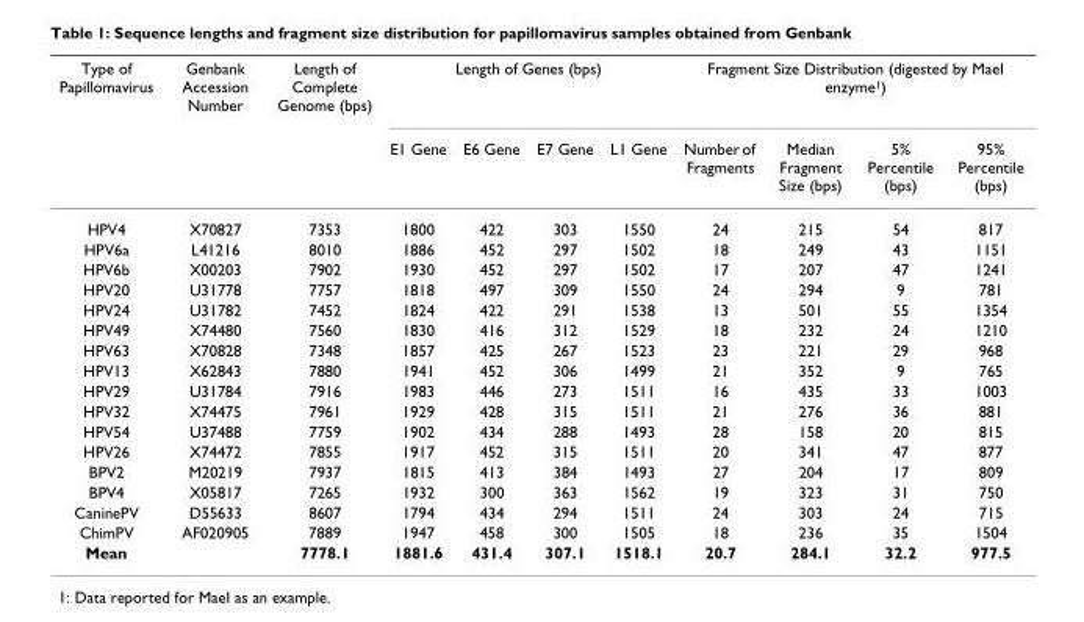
<table><thead><tr><td rowspan="2">Type of Papillomavirus</td><td rowspan="2">Genbank Accession Number</td><td rowspan="2">Length of Complete Genome (bps)</td><td colspan="4">Length of Genes (bps)</td><td colspan="4">Fragment Size Distribution (digested by MaeI enzyme1)</td></tr><tr><td>E1 Gene</td><td>E6 Gene</td><td>E7 Gene</td><td>L1 Gene</td><td>Number of Fragments</td><td>Median Fragment Size (bps)</td><td>5% Percentile (bps)</td><td>95% Percentile (bps)</td></tr></thead><tbody><tr><td>HPV4</td><td>X70827</td><td>7353</td><td>1800</td><td>422</td><td>303</td><td>1550</td><td>24</td><td>215</td><td>54</td><td>817</td></tr><tr><td>HPV6a</td><td>L41216</td><td>8010</td><td>1886</td><td>452</td><td>297</td><td>1502</td><td>18</td><td>249</td><td>43</td><td>1151</td></tr><tr><td>HPV6b</td><td>X00203</td><td>7902</td><td>1930</td><td>452</td><td>297</td><td>1502</td><td>17</td><td>207</td><td>47</td><td>1241</td></tr><tr><td>HPV20</td><td>U31778</td><td>7757</td><td>1818</td><td>497</td><td>309</td><td>1550</td><td>24</td><td>294</td><td>9</td><td>781</td></tr><tr><td>HPV24</td><td>U31782</td><td>7452</td><td>1824</td><td>422</td><td>291</td><td>1538</td><td>13</td><td>501</td><td>55</td><td>1354</td></tr><tr><td>HPV49</td><td>X74480</td><td>7560</td><td>1830</td><td>416</td><td>312</td><td>1529</td><td>18</td><td>232</td><td>24</td><td>1210</td></tr><tr><td>HPV63</td><td>X70828</td><td>7348</td><td>1857</td><td>425</td><td>267</td><td>1523</td><td>23</td><td>221</td><td>29</td><td>968</td></tr><tr><td>HPV13</td><td>X62843</td><td>7880</td><td>1941</td><td>452</td><td>306</td><td>1499</td><td>21</td><td>352</td><td>9</td><td>765</td></tr><tr><td>HPV29</td><td>U31784</td><td>7916</td><td>1983</td><td>446</td><td>273</td><td>1511</td><td>16</td><td>435</td><td>33</td><td>1003</td></tr><tr><td>HPV32</td><td>X74475</td><td>7961</td><td>1929</td><td>428</td><td>315</td><td>1511</td><td>21</td><td>276</td><td>36</td><td>881</td></tr><tr><td>HPV54</td><td>U37488</td><td>7759</td><td>1902</td><td>434</td><td>288</td><td>1493</td><td>28</td><td>158</td><td>20</td><td>815</td></tr><tr><td>HPV26</td><td>X74472</td><td>7855</td><td>1917</td><td>452</td><td>315</td><td>1511</td><td>20</td><td>341</td><td>47</td><td>877</td></tr><tr><td>BPV2</td><td>M20219</td><td>7937</td><td>1815</td><td>413</td><td>384</td><td>1493</td><td>27</td><td>204</td><td>17</td><td>809</td></tr><tr><td>BPV4</td><td>X05817</td><td>7265</td><td>1932</td><td>300</td><td>363</td><td>1562</td><td>19</td><td>323</td><td>31</td><td>750</td></tr><tr><td>CaninePV</td><td>D55633</td><td>8607</td><td>1794</td><td>434</td><td>294</td><td>1511</td><td>24</td><td>303</td><td>24</td><td>715</td></tr><tr><td>ChimPV</td><td>AF020905</td><td>7889</td><td>1947</td><td>458</td><td>300</td><td>1505</td><td>18</td><td>236</td><td>35</td><td>1504</td></tr><tr><td>Mean</td><td></td><td>7778.1</td><td>1881.6</td><td>431.4</td><td>307.1</td><td>1518.1</td><td>20.7</td><td>284.1</td><td>32.2</td><td>977.5</td></tr></tbody></table>